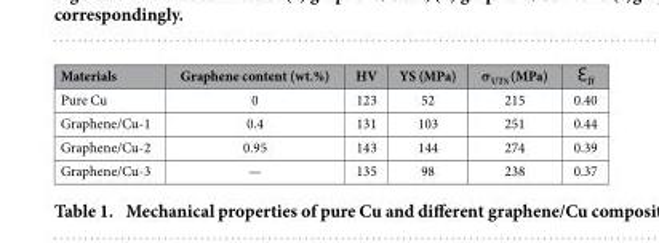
<table><thead><tr><td>Materials</td><td>Graphene content (wt.%)</td><td>HV</td><td>YS (MPa)</td><td>σ<sub>UTS</sub> (MPa)</td><td>Ɛff</td></tr></thead><tbody><tr><td>Pure Cu</td><td>0</td><td>123</td><td>52</td><td>215</td><td>0.40</td></tr><tr><td>Graphene/Cu-1</td><td>0.4</td><td>131</td><td>103</td><td>251</td><td>0.44</td></tr><tr><td>Graphene/Cu-2</td><td>0.95</td><td>143</td><td>144</td><td>274</td><td>0.39</td></tr><tr><td>Graphene/Cu-3</td><td>—</td><td>135</td><td>98</td><td>238</td><td>0.37</td></tr></tbody></table>